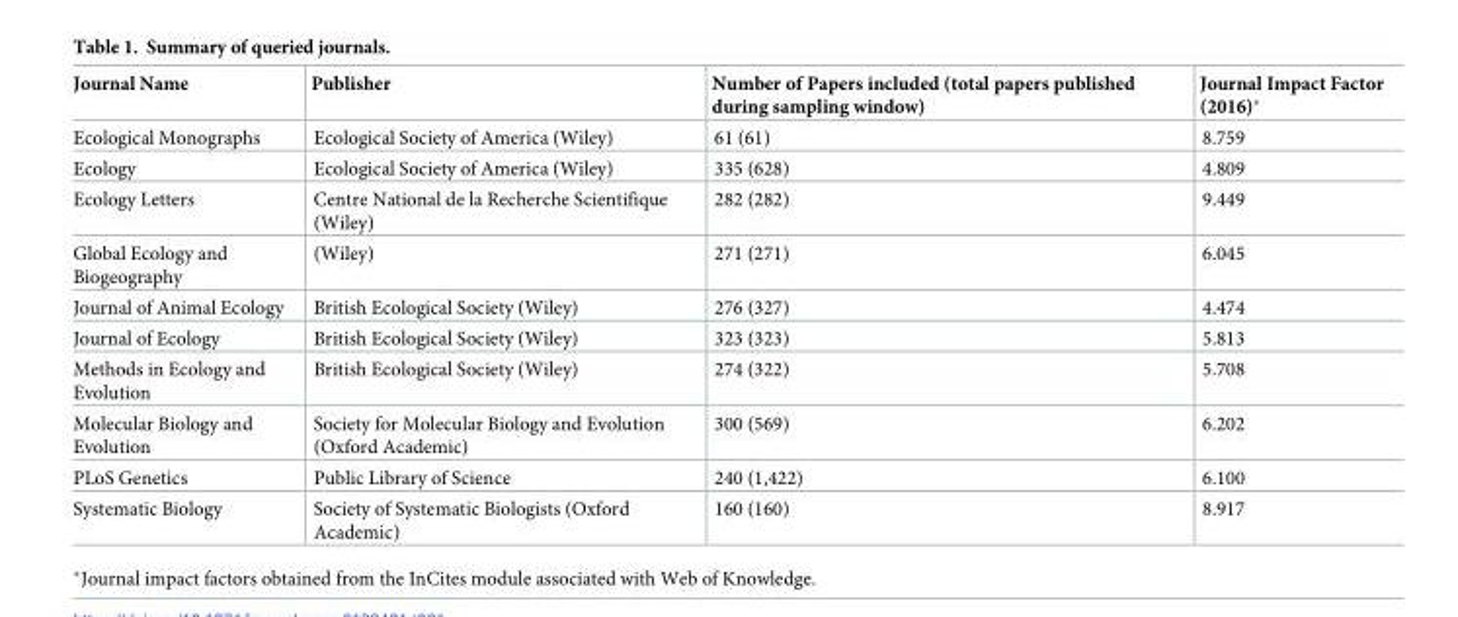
<table><thead><tr><td>Journal Name</td><td>Publisher</td><td>Number of Papers included (total papers published during sampling window)</td><td>Journal Impact Factor (2016)*</td></tr></thead><tbody><tr><td>Ecological Monographs</td><td>Ecological Society of America (Wiley)</td><td>61 (61)</td><td>8.759</td></tr><tr><td>Ecology</td><td>Ecological Society of America (Wiley)</td><td>335 (628)</td><td>4.809</td></tr><tr><td>Ecology Letters</td><td>Centre National de la Recherche Scientifique (Wiley)</td><td>282 (282)</td><td>9.449</td></tr><tr><td>Global Ecology and Biogeography</td><td>(Wiley)</td><td>271 (271)</td><td>6.045</td></tr><tr><td>Journal of Animal Ecology</td><td>British Ecological Society (Wiley)</td><td>276 (327)</td><td>4.474</td></tr><tr><td>Journal of Ecology</td><td>British Ecological Society (Wiley)</td><td>323 (323)</td><td>5.813</td></tr><tr><td>Methods in Ecology and Evolution</td><td>British Ecological Society (Wiley)</td><td>274 (322)</td><td>5.708</td></tr><tr><td>Molecular Biology and Evolution</td><td>Society for Molecular Biology and Evolution (Oxford Academic)</td><td>300 (569)</td><td>6.202</td></tr><tr><td>PLoS Genetics</td><td>Public Library of Science</td><td>240 (1,422)</td><td>6.100</td></tr><tr><td>Systematic Biology</td><td>Society of Systematic Biologists (Oxford Academic)</td><td>160 (160)</td><td>8.917</td></tr></tbody></table>